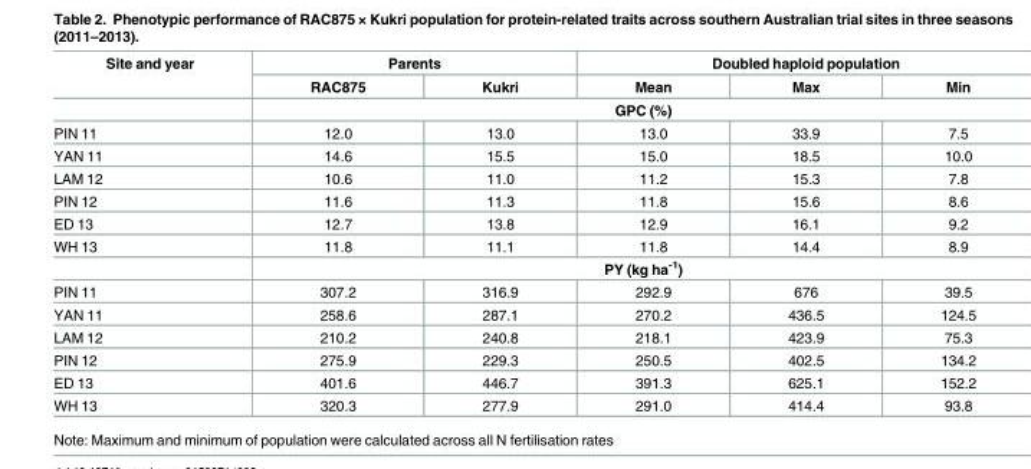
<table><thead><tr><td rowspan="2">Site and year</td><td colspan="2">Parents</td><td colspan="3">Doubled haploid population</td></tr><tr><td>RAC875</td><td>Kukri</td><td>Mean</td><td>Max</td><td>Min</td></tr></thead><tbody><tr><td></td><td colspan="5">GPC (%)</td></tr><tr><td>PIN 11</td><td>12.0</td><td>13.0</td><td>13.0</td><td>33.9</td><td>7.5</td></tr><tr><td>YAN 11</td><td>14.6</td><td>15.5</td><td>15.0</td><td>18.5</td><td>10.0</td></tr><tr><td>LAM 12</td><td>10.6</td><td>11.0</td><td>11.2</td><td>15.3</td><td>7.8</td></tr><tr><td>PIN 12</td><td>11.6</td><td>11.3</td><td>11.8</td><td>15.6</td><td>8.6</td></tr><tr><td>ED 13</td><td>12.7</td><td>13.8</td><td>12.9</td><td>16.1</td><td>9.2</td></tr><tr><td rowspan="2">WH 13</td><td>11.8</td><td>11.1</td><td>11.8</td><td>14.4</td><td>8.9</td></tr><tr><td colspan="5">PY (kg ha<sup>-1</sup>)</td></tr><tr><td>PIN 11</td><td>307.2</td><td>316.9</td><td>292.9</td><td>676</td><td>39.5</td></tr><tr><td>YAN 11</td><td>258.6</td><td>287.1</td><td>270.2</td><td>436.5</td><td>124.5</td></tr><tr><td>LAM 12</td><td>210.2</td><td>240.8</td><td>218.1</td><td>423.9</td><td>75.3</td></tr><tr><td>PIN 12</td><td>275.9</td><td>229.3</td><td>250.5</td><td>402.5</td><td>134.2</td></tr><tr><td>ED 13</td><td>401.6</td><td>446.7</td><td>391.3</td><td>625.1</td><td>152.2</td></tr><tr><td>WH 13</td><td>320.3</td><td>277.9</td><td>291.0</td><td>414.4</td><td>93.8</td></tr></tbody></table>